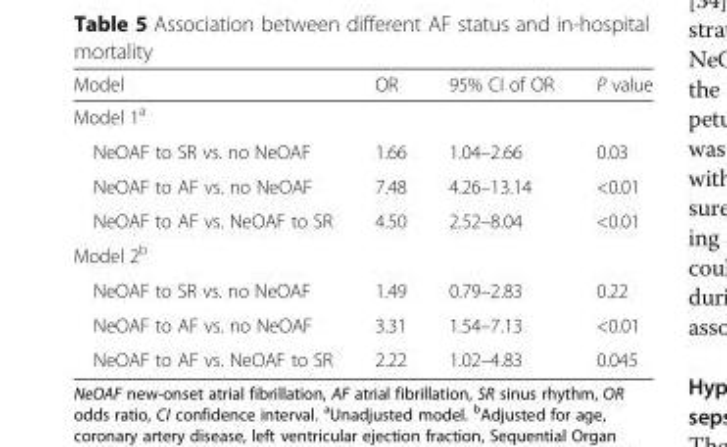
<table><thead><tr><td>Model</td><td>OR</td><td>95% CI of OR</td><td>P value</td></tr></thead><tbody><tr><td colspan="4">Model 1<sup>a</sup></td></tr><tr><td>NeOAF to SR vs. no NeOAF</td><td>1.66</td><td>1.04–2.66</td><td>0.03</td></tr><tr><td>NeOAF to AF vs. no NeOAF</td><td>7.48</td><td>4.26–13.14</td><td>&lt;0.01</td></tr><tr><td>NeOAF to AF vs. NeOAF to SR</td><td>4.50</td><td>2.52–8.04</td><td>&lt;0.01</td></tr><tr><td colspan="4">Model 2<sup>b</sup></td></tr><tr><td>NeOAF to SR vs. no NeOAF</td><td>1.49</td><td>0.79–2.83</td><td>0.22</td></tr><tr><td>NeOAF to AF vs. no NeOAF</td><td>3.31</td><td>1.54–7.13</td><td>&lt;0.01</td></tr><tr><td>NeOAF to AF vs. NeOAF to SR</td><td>2.22</td><td>1.02–4.83</td><td>0.045</td></tr></tbody></table>